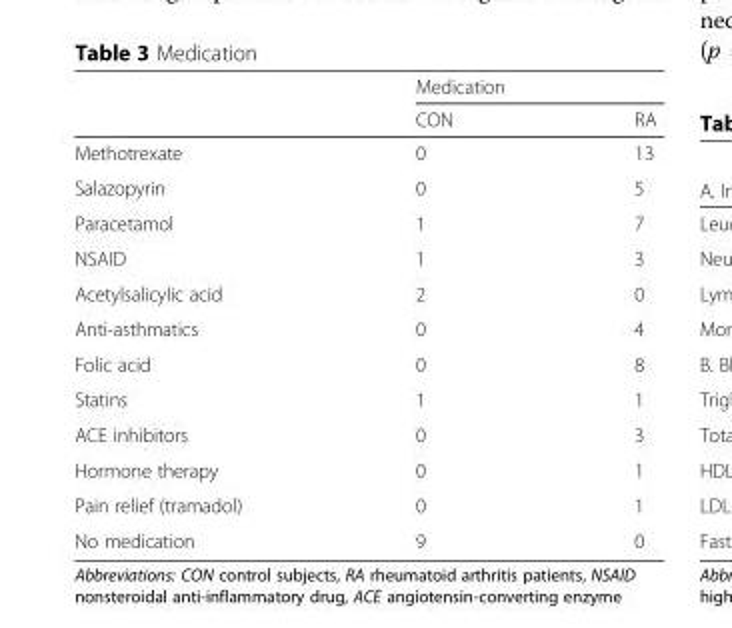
<table><thead><tr><td rowspan="2"></td><td colspan="2">Medication</td></tr><tr><td>CON</td><td>RA</td></tr></thead><tbody><tr><td>Methotrexate</td><td>0</td><td>13</td></tr><tr><td>Salazopyrin</td><td>0</td><td>5</td></tr><tr><td>Paracetamol</td><td>1</td><td>7</td></tr><tr><td>NSAID</td><td>1</td><td>3</td></tr><tr><td>Acetylsalicylic acid</td><td>2</td><td>0</td></tr><tr><td>Anti-asthmatics</td><td>0</td><td>4</td></tr><tr><td>Folic acid</td><td>0</td><td>8</td></tr><tr><td>Statins</td><td>1</td><td>1</td></tr><tr><td>ACE inhibitors</td><td>0</td><td>3</td></tr><tr><td>Hormone therapy</td><td>0</td><td>1</td></tr><tr><td>Pain relief (tramadol)</td><td>0</td><td>1</td></tr><tr><td>No medication</td><td>9</td><td>0</td></tr></tbody></table>